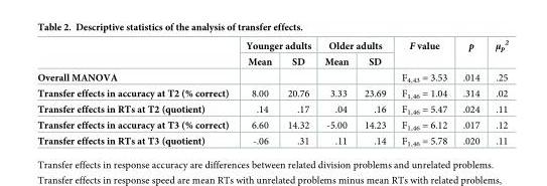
<table><thead><tr><td rowspan="2"></td><td colspan="2">Younger adults</td><td colspan="2">Older adults</td><td rowspan="2">F value</td><td rowspan="2">p</td><td rowspan="2">μ<sub>p</sub> <sup>2</sup></td></tr><tr><td>Mean</td><td>SD</td><td>Mean</td><td>SD</td></tr></thead><tbody><tr><td>Overall MANOVA</td><td></td><td></td><td></td><td></td><td>F<sub>4,43</sub> = 3.53</td><td>.014</td><td>.25</td></tr><tr><td>Transfer effects in accuracy at T2 (% correct)</td><td>8.00</td><td>20.76</td><td>3.33</td><td>23.69</td><td>F<sub>1,46</sub> = 1.04</td><td>.314</td><td>.02</td></tr><tr><td>Transfer effects in RTs at T2 (quotient)</td><td>.14</td><td>.17</td><td>.04</td><td>.16</td><td>F<sub>1,46</sub> = 5.47</td><td>.024</td><td>.11</td></tr><tr><td>Transfer effects in accuracy at T3 (% correct)</td><td>6.60</td><td>14.32</td><td>-5.00</td><td>14.23</td><td>F<sub>1,46</sub> = 6.12</td><td>.017</td><td>.12</td></tr><tr><td>Transfer effects in RTs at T3 (quotient)</td><td>-.06</td><td>.31</td><td>.11</td><td>.14</td><td>F<sub>1,46</sub> = 5.78</td><td>.020</td><td>.11</td></tr></tbody></table>